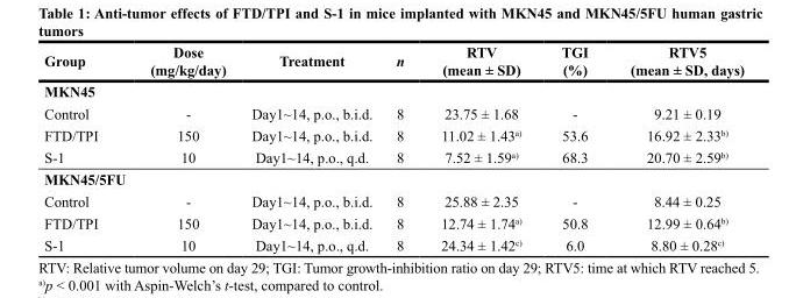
<table><thead><tr><td>Group</td><td>Dose (mg/kg/day)</td><td>Treatment</td><td>n</td><td>RTV (mean ± SD)</td><td>TGI (%)</td><td>RTV5 (mean ± SD, days)</td></tr></thead><tbody><tr><td colspan="7">MKN45</td></tr><tr><td>Control</td><td>-</td><td>Day1~14, p.o., b.i.d.</td><td>8</td><td>23.75 ± 1.68</td><td>-</td><td>9.21 ± 0.19</td></tr><tr><td>FTD/TPI</td><td>150</td><td>Day1~14, p.o., b.i.d.</td><td>8</td><td>11.02 ± 1.43<sup>a)</sup></td><td>53.6</td><td>16.92 ± 2.33<sup>b)</sup></td></tr><tr><td>S-1</td><td>10</td><td>Day1~14, p.o., q.d.</td><td>8</td><td>7.52 ± 1.59<sup>a)</sup></td><td>68.3</td><td>20.70 ± 2.59<sup>b)</sup></td></tr><tr><td colspan="7">MKN45/5FU</td></tr><tr><td>Control</td><td>-</td><td>Day1~14, p.o., b.i.d.</td><td>8</td><td>25.88 ± 2.35</td><td>-</td><td>8.44 ± 0.25</td></tr><tr><td>FTD/TPI</td><td>150</td><td>Day1~14, p.o., b.i.d.</td><td>8</td><td>12.74 ± 1.74<sup>a)</sup></td><td>50.8</td><td>12.99 ± 0.64<sup>b)</sup></td></tr><tr><td>S-1</td><td>10</td><td>Day1~14, p.o., q.d.</td><td>8</td><td>24.34 ± 1.42<sup>c)</sup></td><td>6.0</td><td>8.80 ± 0.28<sup>c)</sup></td></tr></tbody></table>